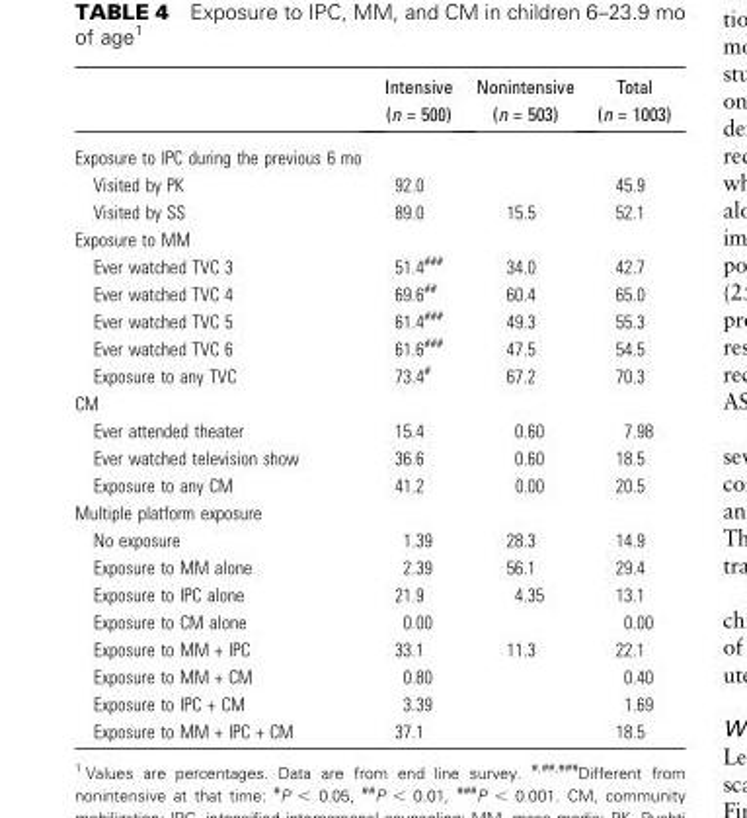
<table><thead><tr><td></td><td>Intensive (n = 500)</td><td>Nonintensive (n = 503)</td><td>Total (n = 1003)</td></tr></thead><tbody><tr><td colspan="4">Exposure to IPC during the previous 6 mo</td></tr><tr><td>Visited by PK</td><td>92.0</td><td></td><td>45.9</td></tr><tr><td>Visited by SS</td><td>89.0</td><td>15.5</td><td>52.1</td></tr><tr><td colspan="4">Exposure to MM</td></tr><tr><td>Ever watched TVC 3</td><td>51.4<sup>###</sup></td><td>34.0</td><td>42.7</td></tr><tr><td>Ever watched TVC 4</td><td>69.6<sup>##</sup></td><td>60.4</td><td>65.0</td></tr><tr><td>Ever watched TVC 5</td><td>61.4<sup>###</sup></td><td>49.3</td><td>55.3</td></tr><tr><td>Ever watched TVC 6</td><td>61.6<sup>###</sup></td><td>47.5</td><td>54.5</td></tr><tr><td>Exposure to any TVC</td><td>73.4<sup>#</sup></td><td>67.2</td><td>70.3</td></tr><tr><td colspan="4">CM</td></tr><tr><td>Ever attended theater</td><td>15.4</td><td>0.60</td><td>7.98</td></tr><tr><td>Ever watched television show</td><td>36.6</td><td>0.60</td><td>18.5</td></tr><tr><td>Exposure to any CM</td><td>41.2</td><td>0.00</td><td>20.5</td></tr><tr><td colspan="4">Multiple platform exposure</td></tr><tr><td>No exposure</td><td>1.39</td><td>28.3</td><td>14.9</td></tr><tr><td>Exposure to MM alone</td><td>2.39</td><td>56.1</td><td>29.4</td></tr><tr><td>Exposure to IPC alone</td><td>21.9</td><td>4.35</td><td>13.1</td></tr><tr><td>Exposure to CM alone</td><td>0.00</td><td></td><td>0.00</td></tr><tr><td>Exposure to MM + IPC</td><td>33.1</td><td>11.3</td><td>22.1</td></tr><tr><td>Exposure to MM + CM</td><td>0.80</td><td></td><td>0.40</td></tr><tr><td>Exposure to IPC + CM</td><td>3.39</td><td></td><td>1.69</td></tr><tr><td>Exposure to MM + IPC + CM</td><td>37.1</td><td></td><td>18.5</td></tr></tbody></table>